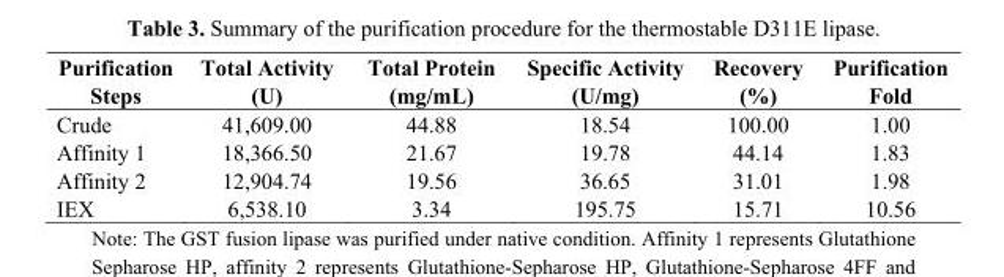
<table><thead><tr><td>Purification Steps</td><td>Total Activity (U)</td><td>Total Protein (mg/mL)</td><td>Specific Activity (U/mg)</td><td>Recovery (%)</td><td>Purification Fold</td></tr></thead><tbody><tr><td>Crude</td><td>41,609.00</td><td>44.88</td><td>18.54</td><td>100.00</td><td>1.00</td></tr><tr><td>Affinity 1</td><td>18,366.50</td><td>21.67</td><td>19.78</td><td>44.14</td><td>1.83</td></tr><tr><td>Affinity 2</td><td>12,904.74</td><td>19.56</td><td>36.65</td><td>31.01</td><td>1.98</td></tr><tr><td>IEX</td><td>6,538.10</td><td>3.34</td><td>195.75</td><td>15.71</td><td>10.56</td></tr></tbody></table>